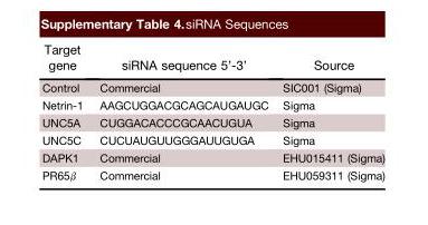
<table><thead><tr><td>Target gene</td><td>siRNA sequence 5’-3’</td><td>Source</td></tr></thead><tbody><tr><td>Control</td><td>Commercial</td><td>SIC001 (Sigma)</td></tr><tr><td>Netrin-1</td><td>AAGCUGGACGCAGCAUGAUGC</td><td>Sigma</td></tr><tr><td>UNC5A</td><td>CUGGACACCCGCAACUGUA</td><td>Sigma</td></tr><tr><td>UNC5C</td><td>CUCUAUGUUGGGAUUGUGA</td><td>Sigma</td></tr><tr><td>DAPK1</td><td>Commercial</td><td>EHU015411 (Sigma)</td></tr><tr><td>PR65β</td><td>Commercial</td><td>EHU059311 (Sigma)</td></tr></tbody></table>